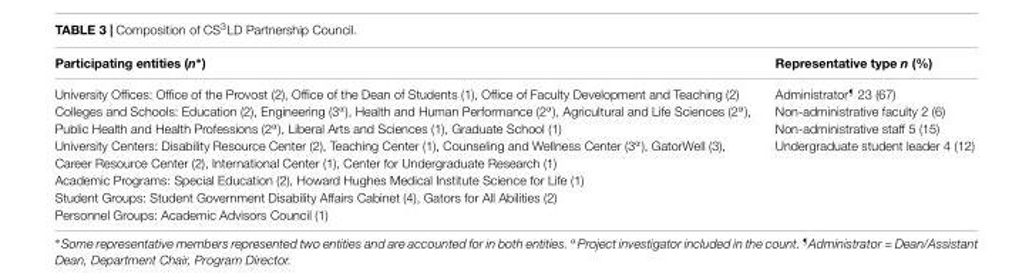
<table><thead><tr><td>Participating entities (n∗)</td><td>Representative type n (%)</td></tr></thead><tbody><tr><td>University Offices: Office of the Provost (2), Office of the Dean of Students (1), Office of Faculty Development and Teaching (2) Colleges and Schools: Education (2), Engineering (3<sup>α</sup>), Health and Human Performance (2<sup>α</sup>), Agricultural and Life Sciences (2<sup>α</sup>), Public Health and Health Professions (2<sup>α</sup>), Liberal Arts and Sciences (1), Graduate School (1) University Centers: Disability Resource Center (2), Teaching Center (1), Counseling and Wellness Center (3<sup>α</sup>), GatorWell (3), Career Resource Center (2), International Center (1), Center for Undergraduate Research (1) Academic Programs: Special Education (2), Howard Hughes Medical Institute Science for Life (1) Student Groups: Student Government Disability Affairs Cabinet (4), Gators for All Abilities (2) Personnel Groups: Academic Advisors Council (1)</td><td>Administrator<sup>¶</sup> 23 (67) Non-administrative faculty 2 (6) Non-administrative staff 5 (15) Undergraduate student leader 4 (12)</td></tr></tbody></table>